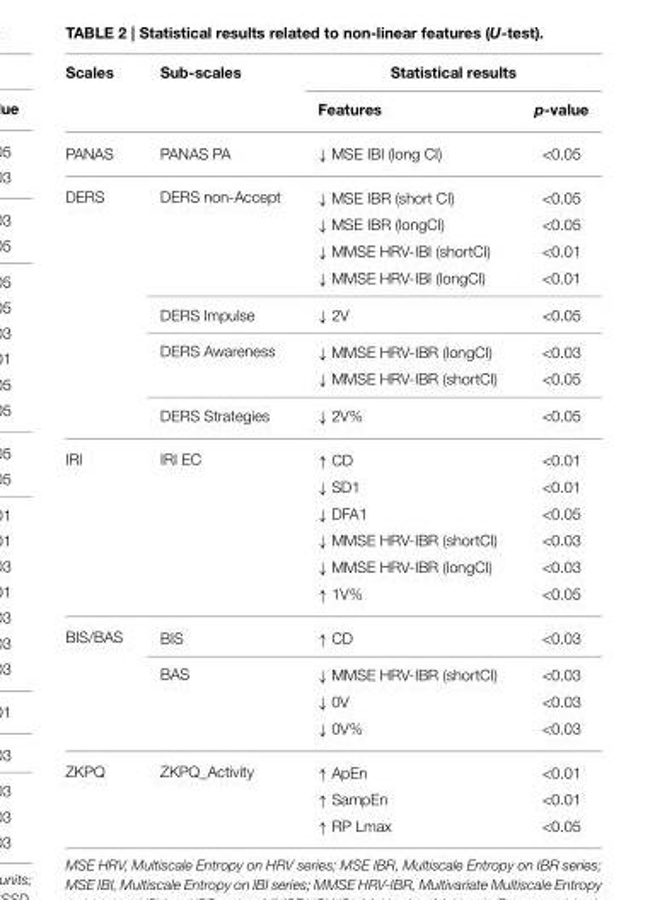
<table><thead><tr><td rowspan="2">Scales</td><td rowspan="2">Sub-scales</td><td colspan="2">Statistical results</td></tr><tr><td>Features</td><td>p-value</td></tr></thead><tbody><tr><td>PANAS</td><td>PANAS PA</td><td>↓ MSE IBI (long CI)</td><td>&lt;0.05</td></tr><tr><td rowspan="8">DERS</td><td>DERS non-Accept</td><td>↓ MSE IBR (short CI)</td><td>&lt;0.05</td></tr><tr><td></td><td>↓ MSE IBR (longCI)</td><td>&lt;0.05</td></tr><tr><td></td><td>↓ MMSE HRV-IBI (shortCI)</td><td>&lt;0.01</td></tr><tr><td></td><td>↓ MMSE HRV-IBI (longCI)</td><td>&lt;0.01</td></tr><tr><td>DERS Impulse</td><td>↓ 2V</td><td>&lt;0.05</td></tr><tr><td>DERS Awareness</td><td>↓ MMSE HRV-IBR (longCI)</td><td>&lt;0.03</td></tr><tr><td></td><td>↓ MMSE HRV-IBR (shortCI)</td><td>&lt;0.05</td></tr><tr><td>DERS Strategies</td><td>↓ 2V%</td><td>&lt;0.05</td></tr><tr><td rowspan="6">IRI</td><td>IRI EC</td><td>↑ CD</td><td>&lt;0.01</td></tr><tr><td></td><td>↓ SD1</td><td>&lt;0.01</td></tr><tr><td></td><td>↓ DFA1</td><td>&lt;0.05</td></tr><tr><td></td><td>↓ MMSE HRV-IBR (shortCI)</td><td>&lt;0.03</td></tr><tr><td></td><td>↓ MMSE HRV-IBR (longCI)</td><td>&lt;0.03</td></tr><tr><td></td><td>↑ 1V%</td><td>&lt;0.05</td></tr><tr><td rowspan="4">BIS/BAS</td><td>BIS</td><td>↑ CD</td><td>&lt;0.03</td></tr><tr><td>BAS</td><td>↓ MMSE HRV-IBR (shortCI)</td><td>&lt;0.03</td></tr><tr><td></td><td>↓ 0V</td><td>&lt;0.03</td></tr><tr><td></td><td>↓ 0V%</td><td>&lt;0.03</td></tr><tr><td rowspan="3">ZKPQ</td><td>ZKPQ_Activity</td><td>↑ ApEn</td><td>&lt;0.01</td></tr><tr><td></td><td>↑ SampEn</td><td>&lt;0.01</td></tr><tr><td></td><td>↑ RP Lmax</td><td>&lt;0.05</td></tr></tbody></table>